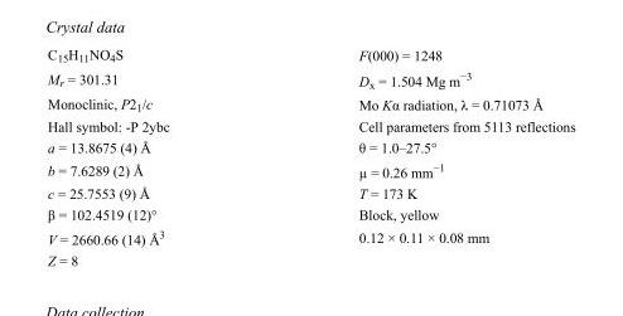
<table><tbody><tr><td>C<sub>15</sub>H<sub>11</sub>NO<sub>4</sub>S</td><td>F(000) = 1248</td></tr><tr><td>M<sub>r</sub> = 301.31</td><td>D<sub>x</sub> = 1.504 Mg m<sup>−3</sup></td></tr><tr><td>Monoclinic, P2<sub>1</sub>/c</td><td>Mo Kα radiation, λ = 0.71073 Å</td></tr><tr><td>Hall symbol: -P 2ybc</td><td>Cell parameters from 5113 reflections</td></tr><tr><td>a = 13.8675 (4) Å</td><td>θ = 1.0–27.5°</td></tr><tr><td>b = 7.6289 (2) Å</td><td>µ = 0.26 mm<sup>−1</sup></td></tr><tr><td>c = 25.7553 (9) Å</td><td>T = 173 K</td></tr><tr><td>β = 102.4519 (12)°</td><td>Block, yellow</td></tr><tr><td>V = 2660.66 (14) Å<sup>3</sup></td><td>0.12 × 0.11 × 0.08 mm</td></tr><tr><td>Z = 8</td><td></td></tr></tbody></table>